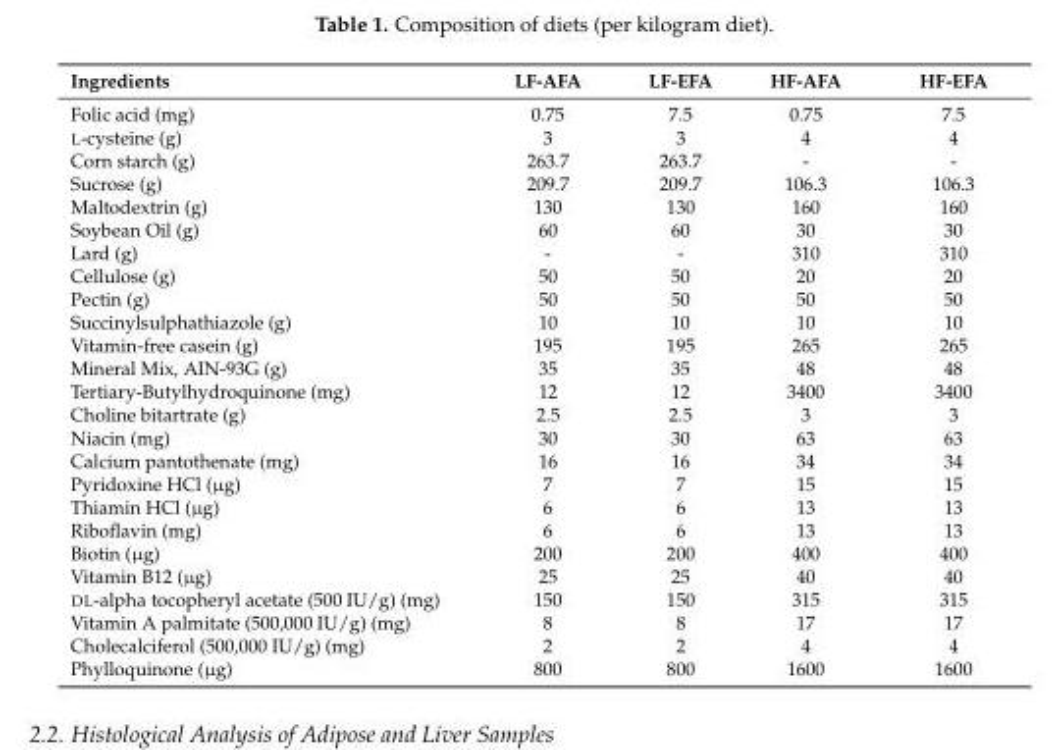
<table><thead><tr><td>Ingredients</td><td>LF-AFA</td><td>LF-EFA</td><td>HF-AFA</td><td>HF-EFA</td></tr></thead><tbody><tr><td>Folic acid (mg)</td><td>0.75</td><td>7.5</td><td>0.75</td><td>7.5</td></tr><tr><td>L-cysteine (g)</td><td>3</td><td>3</td><td>4</td><td>4</td></tr><tr><td>Corn starch (g)</td><td>263.7</td><td>263.7</td><td>-</td><td>-</td></tr><tr><td>Sucrose (g)</td><td>209.7</td><td>209.7</td><td>106.3</td><td>106.3</td></tr><tr><td>Maltodextrin (g)</td><td>130</td><td>130</td><td>160</td><td>160</td></tr><tr><td>Soybean Oil (g)</td><td>60</td><td>60</td><td>30</td><td>30</td></tr><tr><td>Lard (g)</td><td>-</td><td>-</td><td>310</td><td>310</td></tr><tr><td>Cellulose (g)</td><td>50</td><td>50</td><td>20</td><td>20</td></tr><tr><td>Pectin (g)</td><td>50</td><td>50</td><td>50</td><td>50</td></tr><tr><td>Succinylsulphathiazole (g)</td><td>10</td><td>10</td><td>10</td><td>10</td></tr><tr><td>Vitamin-free casein (g)</td><td>195</td><td>195</td><td>265</td><td>265</td></tr><tr><td>Mineral Mix, AIN-93G (g)</td><td>35</td><td>35</td><td>48</td><td>48</td></tr><tr><td>Tertiary-Butylhydroquinone (mg)</td><td>12</td><td>12</td><td>3400</td><td>3400</td></tr><tr><td>Choline bitartrate (g)</td><td>2.5</td><td>2.5</td><td>3</td><td>3</td></tr><tr><td>Niacin (mg)</td><td>30</td><td>30</td><td>63</td><td>63</td></tr><tr><td>Calcium pantothenate (mg)</td><td>16</td><td>16</td><td>34</td><td>34</td></tr><tr><td>Pyridoxine HCl (µg)</td><td>7</td><td>7</td><td>15</td><td>15</td></tr><tr><td>Thiamin HCl (µg)</td><td>6</td><td>6</td><td>13</td><td>13</td></tr><tr><td>Riboflavin (mg)</td><td>6</td><td>6</td><td>13</td><td>13</td></tr><tr><td>Biotin (µg)</td><td>200</td><td>200</td><td>400</td><td>400</td></tr><tr><td>Vitamin B12 (µg)</td><td>25</td><td>25</td><td>40</td><td>40</td></tr><tr><td>DL-alpha tocopheryl acetate (500 IU/g) (mg)</td><td>150</td><td>150</td><td>315</td><td>315</td></tr><tr><td>Vitamin A palmitate (500,000 IU/g) (mg)</td><td>8</td><td>8</td><td>17</td><td>17</td></tr><tr><td>Cholecalciferol (500,000 IU/g) (mg)</td><td>2</td><td>2</td><td>4</td><td>4</td></tr><tr><td>Phylloquinone (µg)</td><td>800</td><td>800</td><td>1600</td><td>1600</td></tr></tbody></table>